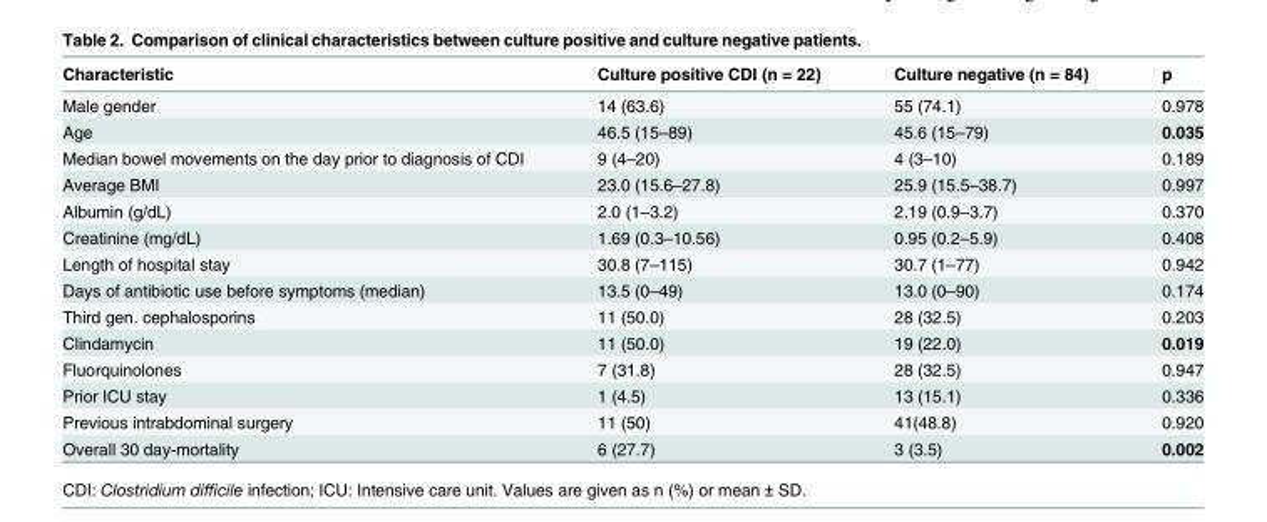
<table><thead><tr><td>Characteristic</td><td>Culture positive CDI (n = 22)</td><td>Culture negative (n = 84)</td><td>p</td></tr></thead><tbody><tr><td>Male gender</td><td>14 (63.6)</td><td>55 (74.1)</td><td>0.978</td></tr><tr><td>Age</td><td>46.5 (15–89)</td><td>45.6 (15–79)</td><td>0.035</td></tr><tr><td>Median bowel movements on the day prior to diagnosis of CDI</td><td>9 (4–20)</td><td>4 (3–10)</td><td>0.189</td></tr><tr><td>Average BMI</td><td>23.0 (15.6–27.8)</td><td>25.9 (15.5–38.7)</td><td>0.997</td></tr><tr><td>Albumin (g/dL)</td><td>2.0 (1–3.2)</td><td>2.19 (0.9–3.7)</td><td>0.370</td></tr><tr><td>Creatinine (mg/dL)</td><td>1.69 (0.3–10.56)</td><td>0.95 (0.2–5.9)</td><td>0.408</td></tr><tr><td>Length of hospital stay</td><td>30.8 (7–115)</td><td>30.7 (1–77)</td><td>0.942</td></tr><tr><td>Days of antibiotic use before symptoms (median)</td><td>13.5 (0–49)</td><td>13.0 (0–90)</td><td>0.174</td></tr><tr><td>Third gen. cephalosporins</td><td>11 (50.0)</td><td>28 (32.5)</td><td>0.203</td></tr><tr><td>Clindamycin</td><td>11 (50.0)</td><td>19 (22.0)</td><td>0.019</td></tr><tr><td>Fluorquinolones</td><td>7 (31.8)</td><td>28 (32.5)</td><td>0.947</td></tr><tr><td>Prior ICU stay</td><td>1 (4.5)</td><td>13 (15.1)</td><td>0.336</td></tr><tr><td>Previous intrabdominal surgery</td><td>11 (50)</td><td>41(48.8)</td><td>0.920</td></tr><tr><td>Overall 30 day-mortality</td><td>6 (27.7)</td><td>3 (3.5)</td><td>0.002</td></tr></tbody></table>